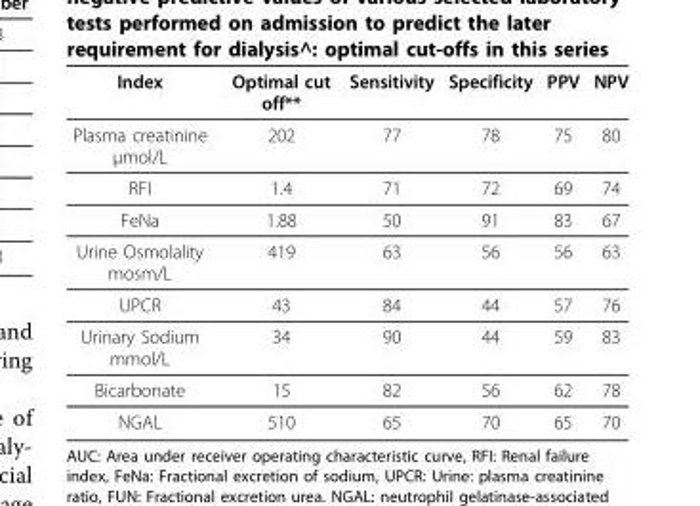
<table><thead><tr><td>Index</td><td>Optimal cut off**</td><td>Sensitivity</td><td>Specificity</td><td>PPV</td><td>NPV</td></tr></thead><tbody><tr><td>Plasma creatinine μmol/L</td><td>202</td><td>77</td><td>78</td><td>75</td><td>80</td></tr><tr><td>RFI</td><td>1.4</td><td>71</td><td>72</td><td>69</td><td>74</td></tr><tr><td>FeNa</td><td>1.88</td><td>50</td><td>91</td><td>83</td><td>67</td></tr><tr><td>Urine Osmolality mosm/L</td><td>419</td><td>63</td><td>56</td><td>56</td><td>63</td></tr><tr><td>UPCR</td><td>43</td><td>84</td><td>44</td><td>57</td><td>76</td></tr><tr><td>Urinary Sodium mmol/L</td><td>34</td><td>90</td><td>44</td><td>59</td><td>83</td></tr><tr><td>Bicarbonate</td><td>15</td><td>82</td><td>56</td><td>62</td><td>78</td></tr><tr><td>NGAL</td><td>510</td><td>65</td><td>70</td><td>65</td><td>70</td></tr></tbody></table>